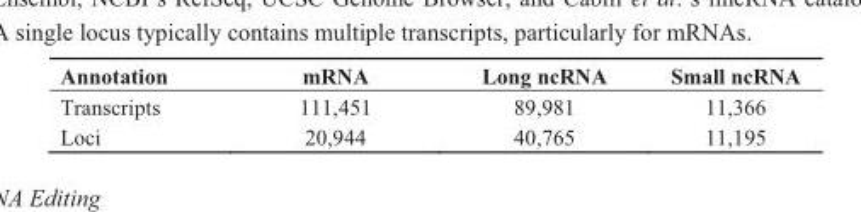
<table><thead><tr><td>Annotation</td><td>mRNA</td><td>Long ncRNA</td><td>Small ncRNA</td></tr></thead><tbody><tr><td>Transcripts</td><td>111,451</td><td>89,981</td><td>11,366</td></tr><tr><td>Loci</td><td>20,944</td><td>40,765</td><td>11,195</td></tr></tbody></table>